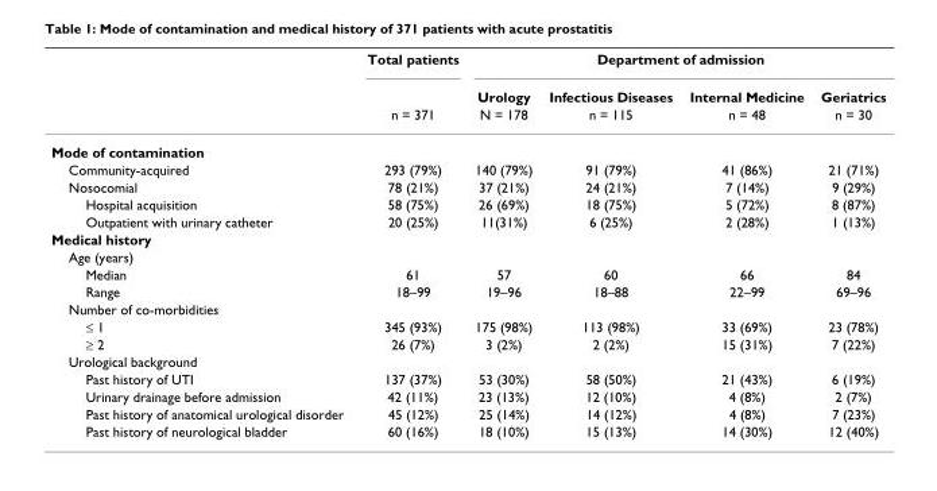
<table><thead><tr><td rowspan="3"></td><td rowspan="3">Total patients n = 371</td><td colspan="4">Department of admission</td></tr><tr><td rowspan="2">Urology N = 178</td><td rowspan="2">Infectious Diseases n = 115</td><td rowspan="2">Internal Medicine n = 48</td><td rowspan="2">Geriatrics n = 30</td></tr><tr></tr></thead><tbody><tr><td colspan="6">Mode of contamination</td></tr><tr><td>Community-acquired</td><td>293 (79%)</td><td>140 (79%)</td><td>91 (79%)</td><td>41 (86%)</td><td>21 (71%)</td></tr><tr><td>Nosocomial</td><td>78 (21%)</td><td>37 (21%)</td><td>24 (21%)</td><td>7 (14%)</td><td>9 (29%)</td></tr><tr><td>Hospital acquisition</td><td>58 (75%)</td><td>26 (69%)</td><td>18 (75%)</td><td>5 (72%)</td><td>8 (87%)</td></tr><tr><td>Outpatient with urinary catheter</td><td>20 (25%)</td><td>11(31%)</td><td>6 (25%)</td><td>2 (28%)</td><td>1 (13%)</td></tr><tr><td colspan="6">Medical history</td></tr><tr><td colspan="6">Age (years)</td></tr><tr><td>Median</td><td>61</td><td>57</td><td>60</td><td>66</td><td>84</td></tr><tr><td>Range</td><td>18–99</td><td>19–96</td><td>18–88</td><td>22–99</td><td>69–96</td></tr><tr><td colspan="6">Number of co-morbidities</td></tr><tr><td>≤ 1</td><td>345 (93%)</td><td>175 (98%)</td><td>113 (98%)</td><td>33 (69%)</td><td>23 (78%)</td></tr><tr><td>≥ 2</td><td>26 (7%)</td><td>3 (2%)</td><td>2 (2%)</td><td>15 (31%)</td><td>7 (22%)</td></tr><tr><td colspan="6">Urological background</td></tr><tr><td>Past history of UTI</td><td>137 (37%)</td><td>53 (30%)</td><td>58 (50%)</td><td>21 (43%)</td><td>6 (19%)</td></tr><tr><td>Urinary drainage before admission</td><td>42 (11%)</td><td>23 (13%)</td><td>12 (10%)</td><td>4 (8%)</td><td>2 (7%)</td></tr><tr><td>Past history of anatomical urological disorder</td><td>45 (12%)</td><td>25 (14%)</td><td>14 (12%)</td><td>4 (8%)</td><td>7 (23%)</td></tr><tr><td>Past history of neurological bladder</td><td>60 (16%)</td><td>18 (10%)</td><td>15 (13%)</td><td>14 (30%)</td><td>12 (40%)</td></tr></tbody></table>